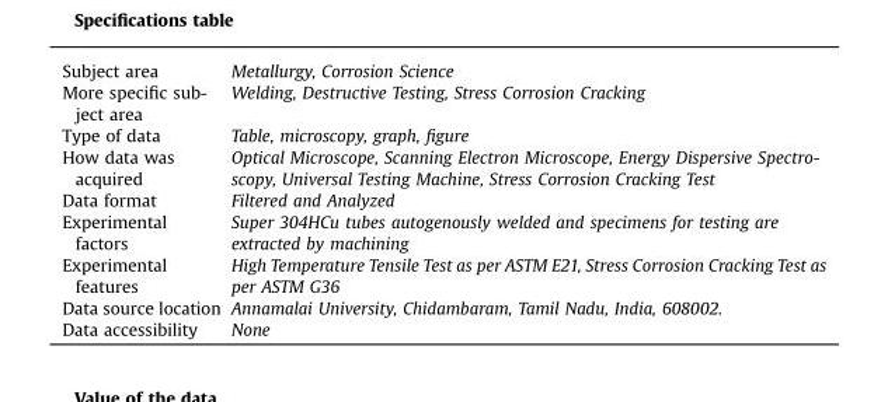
<table><tbody><tr><td>Subject area</td><td>Metallurgy, Corrosion Science</td></tr><tr><td>More specific sub- ject area</td><td>Welding, Destructive Testing, Stress Corrosion Cracking</td></tr><tr><td>Type of data</td><td>Table, microscopy, graph, figure</td></tr><tr><td>How data was acquired</td><td>Optical Microscope, Scanning Electron Microscope, Energy Dispersive Spectro- scopy, Universal Testing Machine, Stress Corrosion Cracking Test</td></tr><tr><td>Data format</td><td>Filtered and Analyzed</td></tr><tr><td>Experimental factors</td><td>Super 304HCu tubes autogenously welded and specimens for testing are extracted by machining</td></tr><tr><td>Experimental features</td><td>High Temperature Tensile Test as per ASTM E21, Stress Corrosion Cracking Test as per ASTM G36</td></tr><tr><td>Data source location</td><td>Annamalai University, Chidambaram, Tamil Nadu, India, 608002.</td></tr><tr><td>Data accessibility</td><td>None</td></tr></tbody></table>